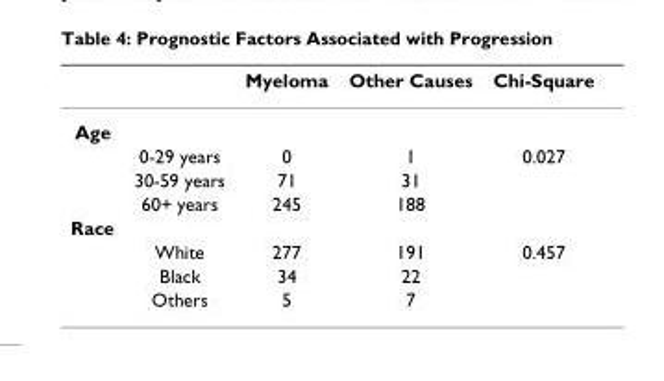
<table><thead><tr><td></td><td></td><td>Myeloma</td><td>Other Causes</td><td>Chi-Square</td></tr></thead><tbody><tr><td colspan="5">Age</td></tr><tr><td></td><td>0-29 years</td><td>0</td><td>1</td><td>0.027</td></tr><tr><td></td><td>30-59 years</td><td>71</td><td>31</td><td></td></tr><tr><td></td><td>60+ years</td><td>245</td><td>188</td><td></td></tr><tr><td colspan="5">Race</td></tr><tr><td></td><td>White</td><td>277</td><td>191</td><td>0.457</td></tr><tr><td></td><td>Black</td><td>34</td><td>22</td><td></td></tr><tr><td></td><td>Others</td><td>5</td><td>7</td><td></td></tr></tbody></table>